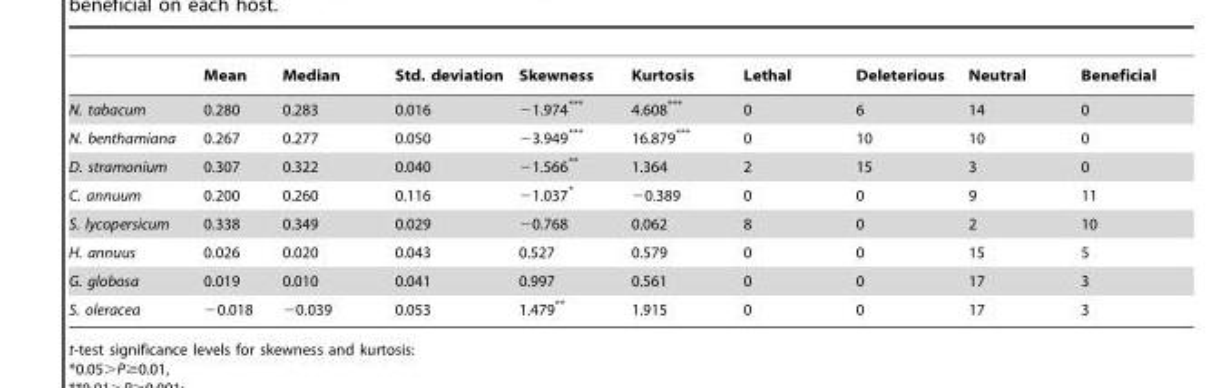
<table><thead><tr><td></td><td>Mean</td><td>Median</td><td>Std. deviation</td><td>Skewness</td><td>Kurtosis</td><td>Lethal</td><td>Deleterious</td><td>Neutral</td><td>Beneficial</td></tr></thead><tbody><tr><td>N. tabacum</td><td>0.280</td><td>0.283</td><td>0.016</td><td>−1.974***</td><td>4.608***</td><td>0</td><td>6</td><td>14</td><td>0</td></tr><tr><td>N. benthamiana</td><td>0.267</td><td>0.277</td><td>0.050</td><td>−3.949***</td><td>16.879***</td><td>0</td><td>10</td><td>10</td><td>0</td></tr><tr><td>D. stramonium</td><td>0.307</td><td>0.322</td><td>0.040</td><td>−1.566**</td><td>1.364</td><td>2</td><td>15</td><td>3</td><td>0</td></tr><tr><td>C. annuum</td><td>0.200</td><td>0.260</td><td>0.116</td><td>−1.037*</td><td>−0.389</td><td>0</td><td>0</td><td>9</td><td>11</td></tr><tr><td>S. lycopersicum</td><td>0.338</td><td>0.349</td><td>0.029</td><td>−0.768</td><td>0.062</td><td>8</td><td>0</td><td>2</td><td>10</td></tr><tr><td>H. annuus</td><td>0.026</td><td>0.020</td><td>0.043</td><td>0.527</td><td>0.579</td><td>0</td><td>0</td><td>15</td><td>5</td></tr><tr><td>G. globosa</td><td>0.019</td><td>0.010</td><td>0.041</td><td>0.997</td><td>0.561</td><td>0</td><td>0</td><td>17</td><td>3</td></tr><tr><td>S. oleracea</td><td>−0.018</td><td>−0.039</td><td>0.053</td><td>1.479**</td><td>1.915</td><td>0</td><td>0</td><td>17</td><td>3</td></tr></tbody></table>